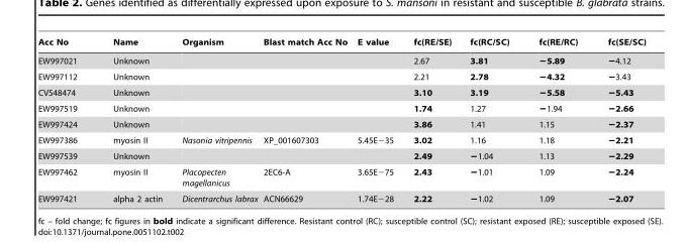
<table><thead><tr><td>Acc No</td><td>Name</td><td>Organism</td><td>Blast match Acc No</td><td>E value</td><td>fc(RE/SE)</td><td>fc(RC/SC)</td><td>fc(RE/RC)</td><td>fc(SE/SC)</td></tr></thead><tbody><tr><td>EW997021</td><td>Unknown</td><td></td><td></td><td></td><td>2.67</td><td>3.81</td><td>−5.89</td><td>−4.12</td></tr><tr><td>EW997112</td><td>Unknown</td><td></td><td></td><td></td><td>2.21</td><td>2.78</td><td>−4.32</td><td>−3.43</td></tr><tr><td>CV548474</td><td>Unknown</td><td></td><td></td><td></td><td>3.10</td><td>3.19</td><td>−5.58</td><td>−5.43</td></tr><tr><td>EW997519</td><td>Unknown</td><td></td><td></td><td></td><td>1.74</td><td>1.27</td><td>−1.94</td><td>−2.66</td></tr><tr><td>EW997424</td><td>Unknown</td><td></td><td></td><td></td><td>3.86</td><td>1.41</td><td>1.15</td><td>−2.37</td></tr><tr><td>EW997386</td><td>myosin II</td><td>Nasonia vitripennis</td><td>XP_001607303</td><td>5.45E−35</td><td>3.02</td><td>1.16</td><td>1.18</td><td>−2.21</td></tr><tr><td>EW997539</td><td>Unknown</td><td></td><td></td><td></td><td>2.49</td><td>−1.04</td><td>1.13</td><td>−2.29</td></tr><tr><td>EW997462</td><td>myosin II</td><td>Placopecten magellanicus</td><td>2EC6-A</td><td>3.65E−75</td><td>2.43</td><td>−1.01</td><td>1.09</td><td>−2.24</td></tr><tr><td>EW997421</td><td>alpha 2 actin</td><td>Dicentrarchus labrax</td><td>ACN66629</td><td>1.74E−28</td><td>2.22</td><td>−1.02</td><td>1.09</td><td>−2.07</td></tr></tbody></table>